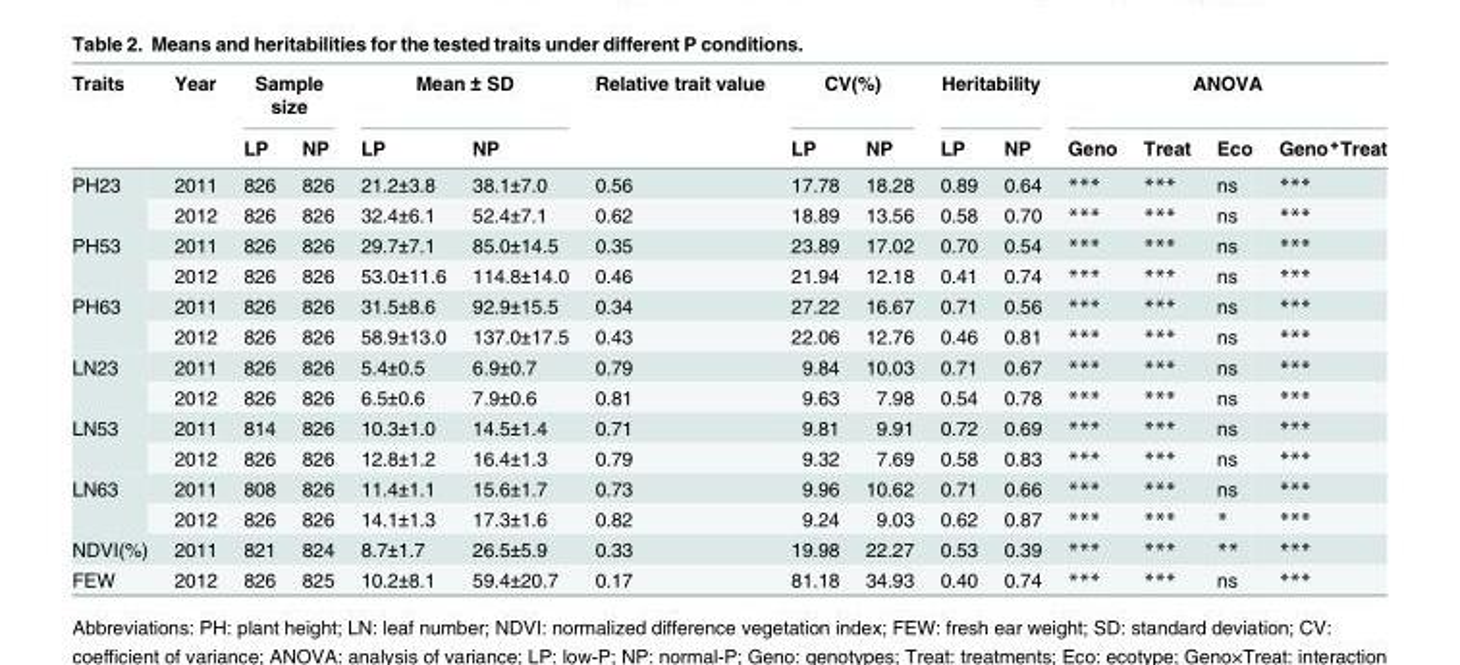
<table><thead><tr><td rowspan="2">Traits</td><td rowspan="2">Year</td><td colspan="2">Sample size</td><td colspan="2">Mean ± SD</td><td rowspan="2">Relative trait value</td><td colspan="2">CV(%)</td><td colspan="2">Heritability</td><td colspan="4">ANOVA</td></tr><tr><td>LP</td><td>NP</td><td>LP</td><td>NP</td><td>LP</td><td>NP</td><td>LP</td><td>NP</td><td>Geno</td><td>Treat</td><td>Eco</td><td>Geno*Treat</td></tr></thead><tbody><tr><td rowspan="2">PH23</td><td>2011</td><td>826</td><td>826</td><td>21.2±3.8</td><td>38.1±7.0</td><td>0.56</td><td>17.78</td><td>18.28</td><td>0.89</td><td>0.64</td><td>***</td><td>***</td><td>ns</td><td>***</td></tr><tr><td>2012</td><td>826</td><td>826</td><td>32.4±6.1</td><td>52.4±7.1</td><td>0.62</td><td>18.89</td><td>13.56</td><td>0.58</td><td>0.70</td><td>***</td><td>***</td><td>ns</td><td>***</td></tr><tr><td rowspan="2">PH53</td><td>2011</td><td>826</td><td>826</td><td>29.7±7.1</td><td>85.0±14.5</td><td>0.35</td><td>23.89</td><td>17.02</td><td>0.70</td><td>0.54</td><td>***</td><td>***</td><td>ns</td><td>***</td></tr><tr><td>2012</td><td>826</td><td>826</td><td>53.0±11.6</td><td>114.8±14.0</td><td>0.46</td><td>21.94</td><td>12.18</td><td>0.41</td><td>0.74</td><td>***</td><td>***</td><td>ns</td><td>***</td></tr><tr><td rowspan="2">PH63</td><td>2011</td><td>826</td><td>826</td><td>31.5±8.6</td><td>92.9±15.5</td><td>0.34</td><td>27.22</td><td>16.67</td><td>0.71</td><td>0.56</td><td>***</td><td>***</td><td>ns</td><td>***</td></tr><tr><td>2012</td><td>826</td><td>826</td><td>58.9±13.0</td><td>137.0±17.5</td><td>0.43</td><td>22.06</td><td>12.76</td><td>0.46</td><td>0.81</td><td>***</td><td>***</td><td>ns</td><td>***</td></tr><tr><td rowspan="2">LN23</td><td>2011</td><td>826</td><td>826</td><td>5.4±0.5</td><td>6.9±0.7</td><td>0.79</td><td>9.84</td><td>10.03</td><td>0.71</td><td>0.67</td><td>***</td><td>***</td><td>ns</td><td>***</td></tr><tr><td>2012</td><td>826</td><td>826</td><td>6.5±0.6</td><td>7.9±0.6</td><td>0.81</td><td>9.63</td><td>7.98</td><td>0.54</td><td>0.78</td><td>***</td><td>***</td><td>ns</td><td>***</td></tr><tr><td rowspan="2">LN53</td><td>2011</td><td>814</td><td>826</td><td>10.3±1.0</td><td>14.5±1.4</td><td>0.71</td><td>9.81</td><td>9.91</td><td>0.72</td><td>0.69</td><td>***</td><td>***</td><td>ns</td><td>***</td></tr><tr><td>2012</td><td>826</td><td>826</td><td>12.8±1.2</td><td>16.4±1.3</td><td>0.79</td><td>9.32</td><td>7.69</td><td>0.58</td><td>0.83</td><td>***</td><td>***</td><td>ns</td><td>***</td></tr><tr><td rowspan="2">LN63</td><td>2011</td><td>808</td><td>826</td><td>11.4±1.1</td><td>15.6±1.7</td><td>0.73</td><td>9.96</td><td>10.62</td><td>0.71</td><td>0.66</td><td>***</td><td>***</td><td>ns</td><td>***</td></tr><tr><td>2012</td><td>826</td><td>826</td><td>14.1±1.3</td><td>17.3±1.6</td><td>0.82</td><td>9.24</td><td>9.03</td><td>0.62</td><td>0.87</td><td>***</td><td>***</td><td>*</td><td>***</td></tr><tr><td>NDVI(%)</td><td>2011</td><td>821</td><td>824</td><td>8.7±1.7</td><td>26.5±5.9</td><td>0.33</td><td>19.98</td><td>22.27</td><td>0.53</td><td>0.39</td><td>***</td><td>***</td><td>**</td><td>***</td></tr><tr><td>FEW</td><td>2012</td><td>826</td><td>825</td><td>10.2±8.1</td><td>59.4±20.7</td><td>0.17</td><td>81.18</td><td>34.93</td><td>0.40</td><td>0.74</td><td>***</td><td>***</td><td>ns</td><td>***</td></tr></tbody></table>